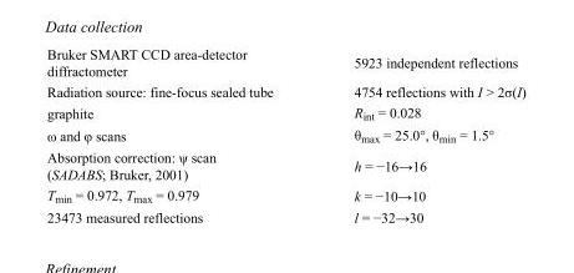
<table><tbody><tr><td>Bruker SMART CCD area-detector diffractometer</td><td>5923 independent reflections</td></tr><tr><td>Radiation source: fine-focus sealed tube</td><td>4754 reflections with I &gt; 2σ(I)</td></tr><tr><td>graphite</td><td>R<sub>int</sub> = 0.028</td></tr><tr><td>ω and φ scans</td><td>θ<sub>max</sub> = 25.0°, θ<sub>min</sub> = 1.5°</td></tr><tr><td>Absorption correction: ψ scan (SADABS; Bruker, 2001)</td><td>h = −16→16</td></tr><tr><td>T<sub>min</sub> = 0.972, T<sub>max</sub> = 0.979</td><td>k = −10→10</td></tr><tr><td>23473 measured reflections</td><td>l = −32→30</td></tr></tbody></table>